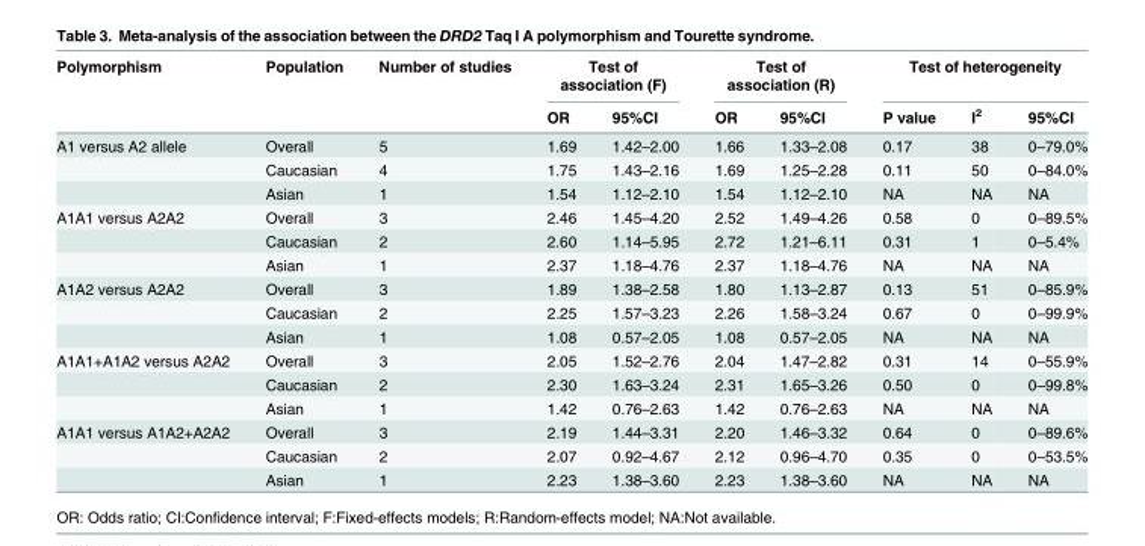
<table><thead><tr><td rowspan="2">Polymorphism</td><td rowspan="2">Population</td><td rowspan="2">Number of studies</td><td colspan="2">Test of association (F)</td><td colspan="2">Test of association (R)</td><td colspan="3">Test of heterogeneity</td></tr><tr><td>OR</td><td>95%CI</td><td>OR</td><td>95%CI</td><td>P value</td><td>I<sup>2</sup></td><td>95%CI</td></tr></thead><tbody><tr><td rowspan="3">A1 versus A2 allele</td><td>Overall</td><td>5</td><td>1.69</td><td>1.42–2.00</td><td>1.66</td><td>1.33–2.08</td><td>0.17</td><td>38</td><td>0–79.0%</td></tr><tr><td>Caucasian</td><td>4</td><td>1.75</td><td>1.43–2.16</td><td>1.69</td><td>1.25–2.28</td><td>0.11</td><td>50</td><td>0–84.0%</td></tr><tr><td>Asian</td><td>1</td><td>1.54</td><td>1.12–2.10</td><td>1.54</td><td>1.12–2.10</td><td>NA</td><td>NA</td><td>NA</td></tr><tr><td rowspan="3">A1A1 versus A2A2</td><td>Overall</td><td>3</td><td>2.46</td><td>1.45–4.20</td><td>2.52</td><td>1.49–4.26</td><td>0.58</td><td>0</td><td>0–89.5%</td></tr><tr><td>Caucasian</td><td>2</td><td>2.60</td><td>1.14–5.95</td><td>2.72</td><td>1.21–6.11</td><td>0.31</td><td>1</td><td>0–5.4%</td></tr><tr><td>Asian</td><td>1</td><td>2.37</td><td>1.18–4.76</td><td>2.37</td><td>1.18–4.76</td><td>NA</td><td>NA</td><td>NA</td></tr><tr><td rowspan="3">A1A2 versus A2A2</td><td>Overall</td><td>3</td><td>1.89</td><td>1.38–2.58</td><td>1.80</td><td>1.13–2.87</td><td>0.13</td><td>51</td><td>0–85.9%</td></tr><tr><td>Caucasian</td><td>2</td><td>2.25</td><td>1.57–3.23</td><td>2.26</td><td>1.58–3.24</td><td>0.67</td><td>0</td><td>0–99.9%</td></tr><tr><td>Asian</td><td>1</td><td>1.08</td><td>0.57–2.05</td><td>1.08</td><td>0.57–2.05</td><td>NA</td><td>NA</td><td>NA</td></tr><tr><td rowspan="3">A1A1+A1A2 versus A2A2</td><td>Overall</td><td>3</td><td>2.05</td><td>1.52–2.76</td><td>2.04</td><td>1.47–2.82</td><td>0.31</td><td>14</td><td>0–55.9%</td></tr><tr><td>Caucasian</td><td>2</td><td>2.30</td><td>1.63–3.24</td><td>2.31</td><td>1.65–3.26</td><td>0.50</td><td>0</td><td>0–99.8%</td></tr><tr><td>Asian</td><td>1</td><td>1.42</td><td>0.76–2.63</td><td>1.42</td><td>0.76–2.63</td><td>NA</td><td>NA</td><td>NA</td></tr><tr><td rowspan="3">A1A1 versus A1A2+A2A2</td><td>Overall</td><td>3</td><td>2.19</td><td>1.44–3.31</td><td>2.20</td><td>1.46–3.32</td><td>0.64</td><td>0</td><td>0–89.6%</td></tr><tr><td>Caucasian</td><td>2</td><td>2.07</td><td>0.92–4.67</td><td>2.12</td><td>0.96–4.70</td><td>0.35</td><td>0</td><td>0–53.5%</td></tr><tr><td>Asian</td><td>1</td><td>2.23</td><td>1.38–3.60</td><td>2.23</td><td>1.38–3.60</td><td>NA</td><td>NA</td><td>NA</td></tr></tbody></table>